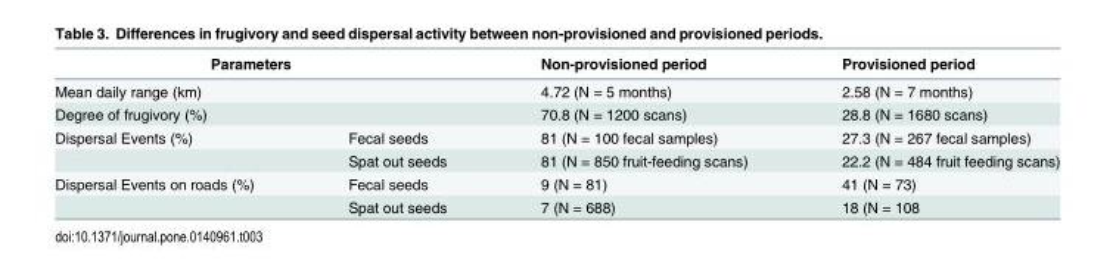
<table><thead><tr><td colspan="2">Parameters</td><td rowspan="2">Non-provisioned period 4.72 (N = 5 months)</td><td rowspan="2">Provisioned period 2.58 (N = 7 months)</td></tr><tr><td>Mean daily range (km)</td><td></td></tr></thead><tbody><tr><td>Degree of frugivory (%)</td><td></td><td>70.8 (N = 1200 scans)</td><td>28.8 (N = 1680 scans)</td></tr><tr><td rowspan="2">Dispersal Events (%)</td><td>Fecal seeds</td><td>81 (N = 100 fecal samples)</td><td>27.3 (N = 267 fecal samples)</td></tr><tr><td>Spat out seeds</td><td>81 (N = 850 fruit-feeding scans)</td><td>22.2 (N = 484 fruit feeding scans)</td></tr><tr><td rowspan="2">Dispersal Events on roads (%)</td><td>Fecal seeds</td><td>9 (N = 81)</td><td>41 (N = 73)</td></tr><tr><td>Spat out seeds</td><td>7 (N = 688)</td><td>18 (N = 108</td></tr></tbody></table>